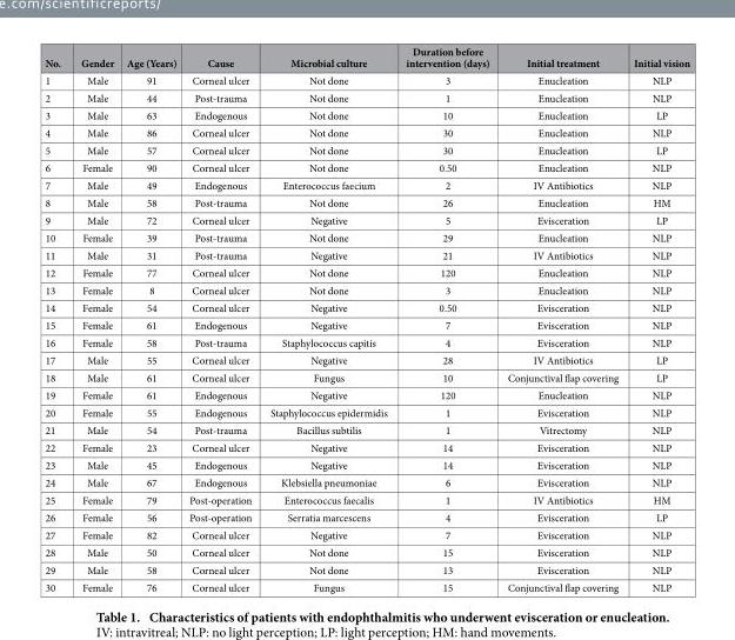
<table><thead><tr><td>No.</td><td>Gender</td><td>Age (Years)</td><td>Cause</td><td>Microbial culture</td><td>Duration before intervention (days)</td><td>Initial treatment</td><td>Initial vision</td></tr></thead><tbody><tr><td>1</td><td>Male</td><td>91</td><td>Corneal ulcer</td><td>Not done</td><td>3</td><td>Enucleation</td><td>NLP</td></tr><tr><td>2</td><td>Male</td><td>44</td><td>Post-trauma</td><td>Not done</td><td>1</td><td>Enucleation</td><td>NLP</td></tr><tr><td>3</td><td>Male</td><td>63</td><td>Endogenous</td><td>Not done</td><td>10</td><td>Enucleation</td><td>LP</td></tr><tr><td>4</td><td>Male</td><td>86</td><td>Corneal ulcer</td><td>Not done</td><td>30</td><td>Enucleation</td><td>NLP</td></tr><tr><td>5</td><td>Male</td><td>57</td><td>Corneal ulcer</td><td>Not done</td><td>30</td><td>Enucleation</td><td>LP</td></tr><tr><td>6</td><td>Female</td><td>90</td><td>Corneal ulcer</td><td>Not done</td><td>0.50</td><td>Enucleation</td><td>NLP</td></tr><tr><td>7</td><td>Male</td><td>49</td><td>Endogenous</td><td>Enterococcus faecium</td><td>2</td><td>IV Antibiotics</td><td>NLP</td></tr><tr><td>8</td><td>Male</td><td>58</td><td>Post-trauma</td><td>Not done</td><td>26</td><td>Enucleation</td><td>HM</td></tr><tr><td>9</td><td>Male</td><td>72</td><td>Corneal ulcer</td><td>Negative</td><td>5</td><td>Evisceration</td><td>LP</td></tr><tr><td>10</td><td>Female</td><td>39</td><td>Post-trauma</td><td>Not done</td><td>29</td><td>Enucleation</td><td>NLP</td></tr><tr><td>11</td><td>Male</td><td>31</td><td>Post-trauma</td><td>Negative</td><td>21</td><td>IV Antibiotics</td><td>NLP</td></tr><tr><td>12</td><td>Female</td><td>77</td><td>Corneal ulcer</td><td>Not done</td><td>120</td><td>Enucleation</td><td>NLP</td></tr><tr><td>13</td><td>Female</td><td>8</td><td>Corneal ulcer</td><td>Not done</td><td>3</td><td>Enucleation</td><td>NLP</td></tr><tr><td>14</td><td>Female</td><td>54</td><td>Corneal ulcer</td><td>Negative</td><td>0.50</td><td>Evisceration</td><td>NLP</td></tr><tr><td>15</td><td>Female</td><td>61</td><td>Endogenous</td><td>Negative</td><td>7</td><td>Evisceration</td><td>NLP</td></tr><tr><td>16</td><td>Female</td><td>58</td><td>Post-trauma</td><td>Staphylococcus capitis</td><td>4</td><td>Evisceration</td><td>NLP</td></tr><tr><td>17</td><td>Male</td><td>55</td><td>Corneal ulcer</td><td>Negative</td><td>28</td><td>IV Antibiotics</td><td>LP</td></tr><tr><td>18</td><td>Male</td><td>61</td><td>Corneal ulcer</td><td>Fungus</td><td>10</td><td>Conjunctival flap covering</td><td>LP</td></tr><tr><td>19</td><td>Female</td><td>61</td><td>Endogenous</td><td>Negative</td><td>120</td><td>Enucleation</td><td>NLP</td></tr><tr><td>20</td><td>Female</td><td>55</td><td>Endogenous</td><td>Staphylococcus epidermidis</td><td>1</td><td>Evisceration</td><td>NLP</td></tr><tr><td>21</td><td>Male</td><td>54</td><td>Post-trauma</td><td>Bacillus subtilis</td><td>1</td><td>Vitrectomy</td><td>NLP</td></tr><tr><td>22</td><td>Female</td><td>23</td><td>Corneal ulcer</td><td>Negative</td><td>14</td><td>Evisceration</td><td>NLP</td></tr><tr><td>23</td><td>Male</td><td>45</td><td>Endogenous</td><td>Negative</td><td>14</td><td>Evisceration</td><td>NLP</td></tr><tr><td>24</td><td>Male</td><td>67</td><td>Endogenous</td><td>Klebsiella pneumoniae</td><td>6</td><td>Evisceration</td><td>NLP</td></tr><tr><td>25</td><td>Female</td><td>79</td><td>Post-operation</td><td>Enterococcus faecalis</td><td>1</td><td>IV Antibiotics</td><td>HM</td></tr><tr><td>26</td><td>Female</td><td>56</td><td>Post-operation</td><td>Serratia marcescens</td><td>4</td><td>Evisceration</td><td>LP</td></tr><tr><td>27</td><td>Female</td><td>82</td><td>Corneal ulcer</td><td>Negative</td><td>7</td><td>Evisceration</td><td>NLP</td></tr><tr><td>28</td><td>Male</td><td>50</td><td>Corneal ulcer</td><td>Not done</td><td>15</td><td>Evisceration</td><td>NLP</td></tr><tr><td>29</td><td>Male</td><td>58</td><td>Corneal ulcer</td><td>Not done</td><td>13</td><td>Evisceration</td><td>NLP</td></tr><tr><td>30</td><td>Female</td><td>76</td><td>Corneal ulcer</td><td>Fungus</td><td>15</td><td>Conjunctival flap covering</td><td>NLP</td></tr></tbody></table>